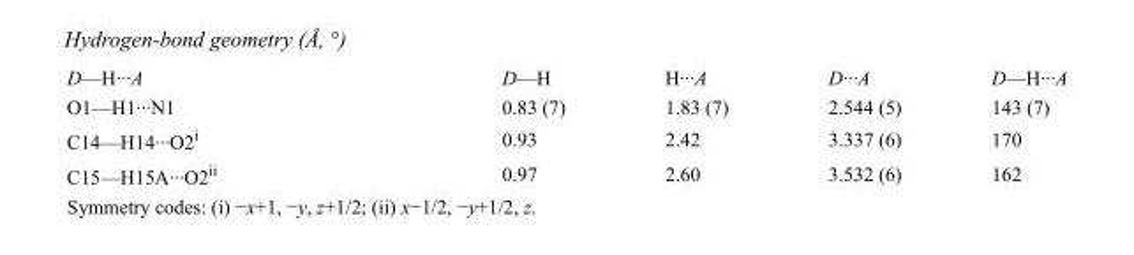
<table><tbody><tr><td>D—H···A</td><td>D—H</td><td>H···A</td><td>D···A</td><td>D—H···A</td></tr><tr><td>O1—H1···N1</td><td>0.83 (7)</td><td>1.83 (7)</td><td>2.544 (5)</td><td>143 (7)</td></tr><tr><td>C14—H14···O2<sup>i</sup></td><td>0.93</td><td>2.42</td><td>3.337 (6)</td><td>170</td></tr><tr><td>C15—H15A···O2<sup>ii</sup></td><td>0.97</td><td>2.60</td><td>3.532 (6)</td><td>162</td></tr></tbody></table>